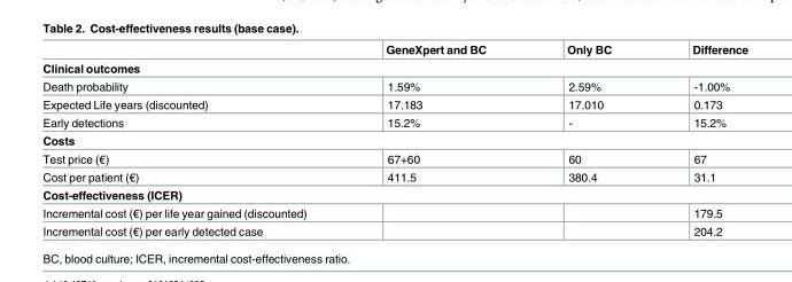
<table><thead><tr><td></td><td>GeneXpert and BC</td><td>Only BC</td><td>Difference</td></tr></thead><tbody><tr><td colspan="4">Clinical outcomes</td></tr><tr><td>Death probability</td><td>1.59%</td><td>2.59%</td><td>-1.00%</td></tr><tr><td>Expected Life years (discounted)</td><td>17.183</td><td>17.010</td><td>0.173</td></tr><tr><td>Early detections</td><td>15.2%</td><td>-</td><td>15.2%</td></tr><tr><td colspan="4">Costs</td></tr><tr><td>Test price (€)</td><td>67+60</td><td>60</td><td>67</td></tr><tr><td>Cost per patient (€)</td><td>411.5</td><td>380.4</td><td>31.1</td></tr><tr><td colspan="4">Cost-effectiveness (ICER)</td></tr><tr><td>Incremental cost (€) per life year gained (discounted)</td><td></td><td></td><td>179.5</td></tr><tr><td>Incremental cost (€) per early detected case</td><td></td><td></td><td>204.2</td></tr></tbody></table>